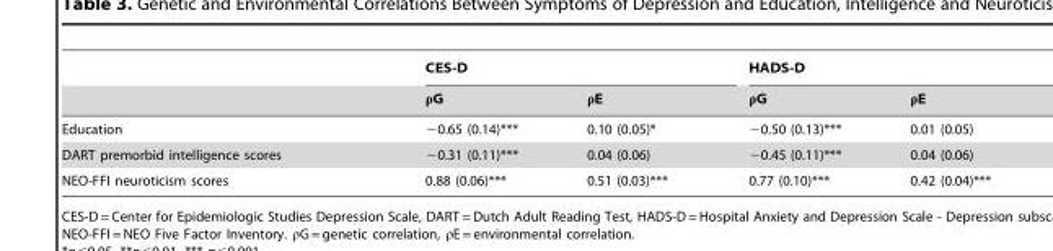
<table><thead><tr><td rowspan="2"></td><td colspan="2">CES-D</td><td colspan="2">HADS-D</td></tr><tr><td>ρG</td><td>ρE</td><td>ρG</td><td>ρE</td></tr></thead><tbody><tr><td>Education</td><td>−0.65 (0.14)***</td><td>0.10 (0.05)*</td><td>−0.50 (0.13)***</td><td>0.01 (0.05)</td></tr><tr><td>DART premorbid intelligence scores</td><td>−0.31 (0.11)***</td><td>0.04 (0.06)</td><td>−0.45 (0.11)***</td><td>0.04 (0.06)</td></tr><tr><td>NEO-FFI neuroticism scores</td><td>0.88 (0.06)***</td><td>0.51 (0.03)***</td><td>0.77 (0.10)***</td><td>0.42 (0.04)***</td></tr></tbody></table>